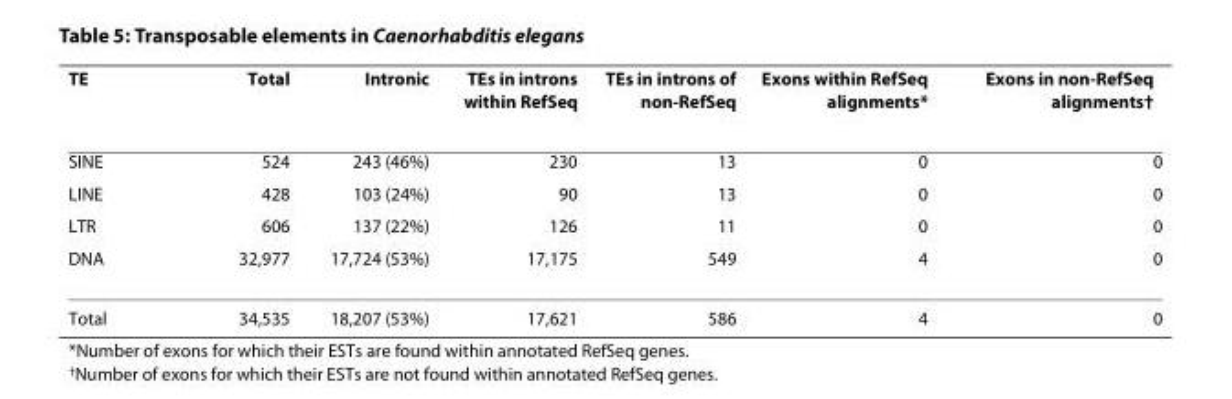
<table><thead><tr><td>TE</td><td>Total</td><td>Intronic</td><td>TEs in introns within RefSeq</td><td>TEs in introns of non-RefSeq</td><td>Exons within RefSeq alignments*</td><td>Exons in non-RefSeq alignments<sup>†</sup></td></tr></thead><tbody><tr><td>SINE</td><td>524</td><td>243 (46%)</td><td>230</td><td>13</td><td>0</td><td>0</td></tr><tr><td>LINE</td><td>428</td><td>103 (24%)</td><td>90</td><td>13</td><td>0</td><td>0</td></tr><tr><td>LTR</td><td>606</td><td>137 (22%)</td><td>126</td><td>11</td><td>0</td><td>0</td></tr><tr><td>DNA</td><td>32,977</td><td>17,724 (53%)</td><td>17,175</td><td>549</td><td>4</td><td>0</td></tr><tr><td>Total</td><td>34,535</td><td>18,207 (53%)</td><td>17,621</td><td>586</td><td>4</td><td>0</td></tr></tbody></table>